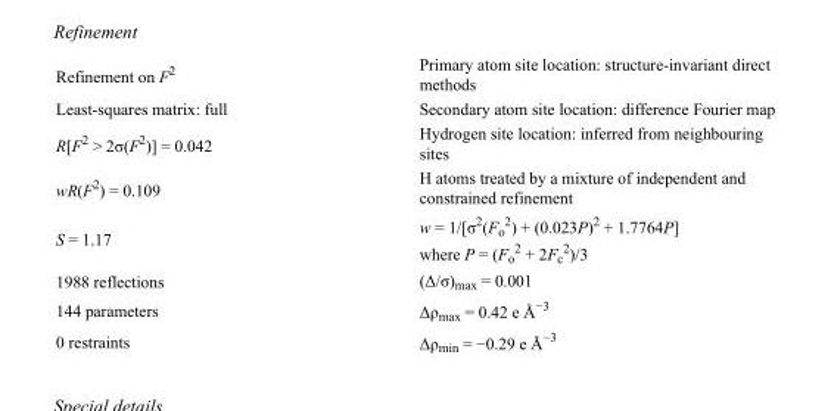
<table><tbody><tr><td>Refinement on F<sup>2</sup></td><td>Primary atom site location: structure-invariant direct methods</td></tr><tr><td>Least-squares matrix: full</td><td>Secondary atom site location: difference Fourier map</td></tr><tr><td>R[F<sup>2</sup> &gt; 2σ(F<sup>2</sup>)] = 0.042</td><td>Hydrogen site location: inferred from neighbouring sites</td></tr><tr><td>wR(F<sup>2</sup>) = 0.109</td><td>H atoms treated by a mixture of independent and constrained refinement</td></tr><tr><td>S = 1.17</td><td>w = 1/[σ<sup>2</sup>(F<sub>o</sub> <sup>2</sup>) + (0.023P)<sup>2</sup> + 1.7764P] where P = (F<sub>o</sub> <sup>2</sup> + 2F<sub>c</sub> <sup>2</sup>)/3</td></tr><tr><td>1988 reflections</td><td>(Δ/σ)<sub>max</sub> = 0.001</td></tr><tr><td>144 parameters</td><td>Δρ<sub>max</sub> = 0.42 e Å<sup>−3</sup></td></tr><tr><td>0 restraints</td><td>Δρ<sub>min</sub> = −0.29 e Å<sup>−3</sup></td></tr></tbody></table>